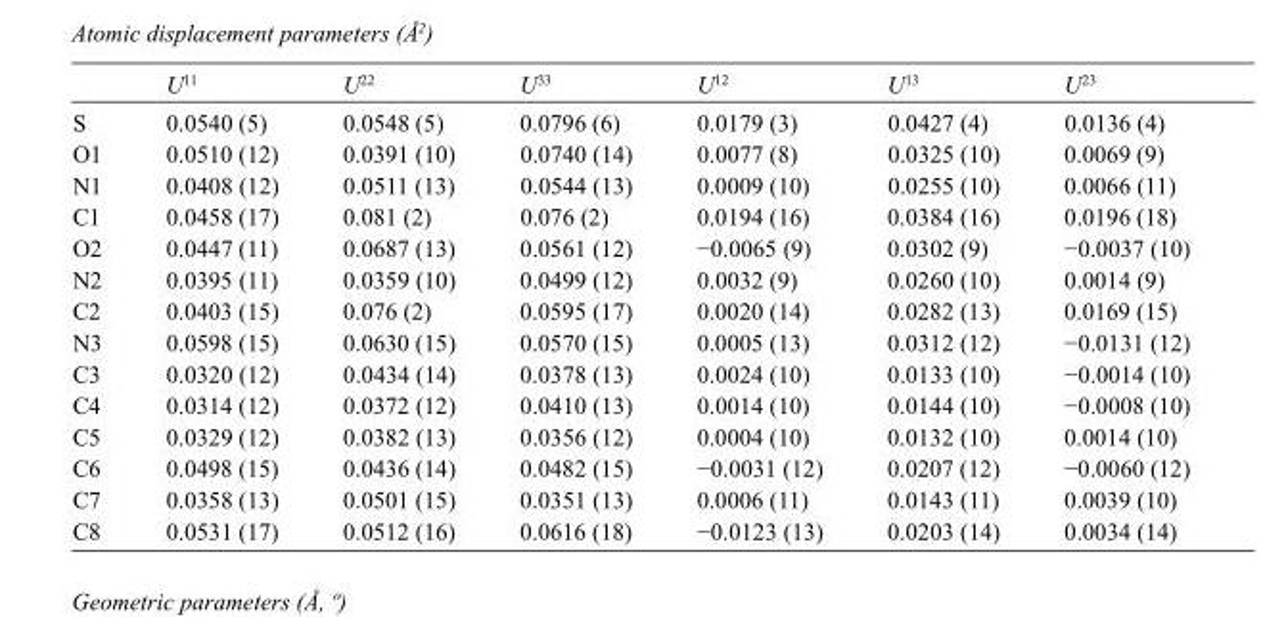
<table><thead><tr><td></td><td>U<sup>11</sup></td><td>U<sup>22</sup></td><td>U<sup>33</sup></td><td>U<sup>12</sup></td><td>U<sup>13</sup></td><td>U<sup>23</sup></td></tr></thead><tbody><tr><td>S</td><td>0.0540 (5)</td><td>0.0548 (5)</td><td>0.0796 (6)</td><td>0.0179 (3)</td><td>0.0427 (4)</td><td>0.0136 (4)</td></tr><tr><td>O1</td><td>0.0510 (12)</td><td>0.0391 (10)</td><td>0.0740 (14)</td><td>0.0077 (8)</td><td>0.0325 (10)</td><td>0.0069 (9)</td></tr><tr><td>N1</td><td>0.0408 (12)</td><td>0.0511 (13)</td><td>0.0544 (13)</td><td>0.0009 (10)</td><td>0.0255 (10)</td><td>0.0066 (11)</td></tr><tr><td>C1</td><td>0.0458 (17)</td><td>0.081 (2)</td><td>0.076 (2)</td><td>0.0194 (16)</td><td>0.0384 (16)</td><td>0.0196 (18)</td></tr><tr><td>O2</td><td>0.0447 (11)</td><td>0.0687 (13)</td><td>0.0561 (12)</td><td>−0.0065 (9)</td><td>0.0302 (9)</td><td>−0.0037 (10)</td></tr><tr><td>N2</td><td>0.0395 (11)</td><td>0.0359 (10)</td><td>0.0499 (12)</td><td>0.0032 (9)</td><td>0.0260 (10)</td><td>0.0014 (9)</td></tr><tr><td>C2</td><td>0.0403 (15)</td><td>0.076 (2)</td><td>0.0595 (17)</td><td>0.0020 (14)</td><td>0.0282 (13)</td><td>0.0169 (15)</td></tr><tr><td>N3</td><td>0.0598 (15)</td><td>0.0630 (15)</td><td>0.0570 (15)</td><td>0.0005 (13)</td><td>0.0312 (12)</td><td>−0.0131 (12)</td></tr><tr><td>C3</td><td>0.0320 (12)</td><td>0.0434 (14)</td><td>0.0378 (13)</td><td>0.0024 (10)</td><td>0.0133 (10)</td><td>−0.0014 (10)</td></tr><tr><td>C4</td><td>0.0314 (12)</td><td>0.0372 (12)</td><td>0.0410 (13)</td><td>0.0014 (10)</td><td>0.0144 (10)</td><td>−0.0008 (10)</td></tr><tr><td>C5</td><td>0.0329 (12)</td><td>0.0382 (13)</td><td>0.0356 (12)</td><td>0.0004 (10)</td><td>0.0132 (10)</td><td>0.0014 (10)</td></tr><tr><td>C6</td><td>0.0498 (15)</td><td>0.0436 (14)</td><td>0.0482 (15)</td><td>−0.0031 (12)</td><td>0.0207 (12)</td><td>−0.0060 (12)</td></tr><tr><td>C7</td><td>0.0358 (13)</td><td>0.0501 (15)</td><td>0.0351 (13)</td><td>0.0006 (11)</td><td>0.0143 (11)</td><td>0.0039 (10)</td></tr><tr><td>C8</td><td>0.0531 (17)</td><td>0.0512 (16)</td><td>0.0616 (18)</td><td>−0.0123 (13)</td><td>0.0203 (14)</td><td>0.0034 (14)</td></tr></tbody></table>